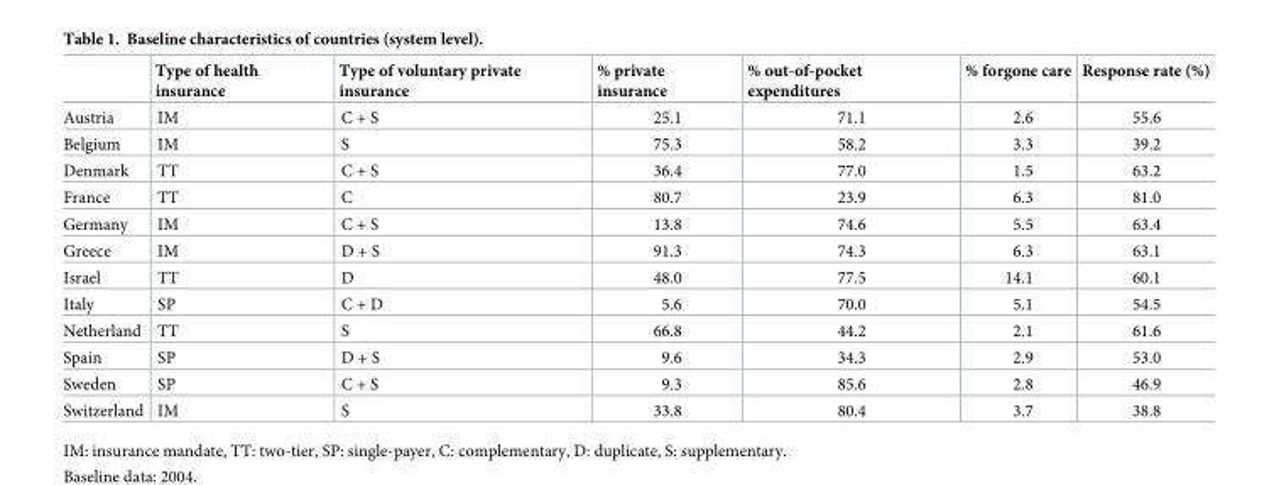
<table><thead><tr><td></td><td>Type of health insurance</td><td>Type of voluntary private insurance</td><td>% private insurance</td><td>% out-of-pocket expenditures</td><td>% forgone care</td><td>Response rate (%)</td></tr></thead><tbody><tr><td>Austria</td><td>IM</td><td>C + S</td><td>25.1</td><td>71.1</td><td>2.6</td><td>55.6</td></tr><tr><td>Belgium</td><td>IM</td><td>S</td><td>75.3</td><td>58.2</td><td>3.3</td><td>39.2</td></tr><tr><td>Denmark</td><td>TT</td><td>C + S</td><td>36.4</td><td>77.0</td><td>1.5</td><td>63.2</td></tr><tr><td>France</td><td>TT</td><td>C</td><td>80.7</td><td>23.9</td><td>6.3</td><td>81.0</td></tr><tr><td>Germany</td><td>IM</td><td>C + S</td><td>13.8</td><td>74.6</td><td>5.5</td><td>63.4</td></tr><tr><td>Greece</td><td>IM</td><td>D + S</td><td>91.3</td><td>74.3</td><td>6.3</td><td>63.1</td></tr><tr><td>Israel</td><td>TT</td><td>D</td><td>48.0</td><td>77.5</td><td>14.1</td><td>60.1</td></tr><tr><td>Italy</td><td>SP</td><td>C + D</td><td>5.6</td><td>70.0</td><td>5.1</td><td>54.5</td></tr><tr><td>Netherland</td><td>TT</td><td>S</td><td>66.8</td><td>44.2</td><td>2.1</td><td>61.6</td></tr><tr><td>Spain</td><td>SP</td><td>D + S</td><td>9.6</td><td>34.3</td><td>2.9</td><td>53.0</td></tr><tr><td>Sweden</td><td>SP</td><td>C + S</td><td>9.3</td><td>85.6</td><td>2.8</td><td>46.9</td></tr><tr><td>Switzerland</td><td>IM</td><td>S</td><td>33.8</td><td>80.4</td><td>3.7</td><td>38.8</td></tr></tbody></table>